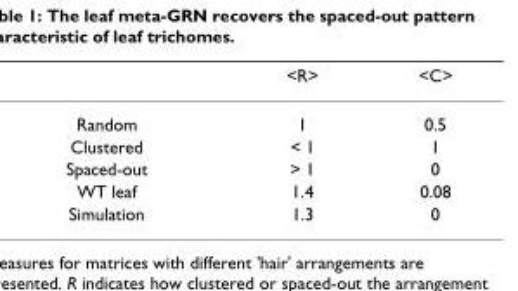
<table><thead><tr><td></td><td>&lt;R&gt;</td><td>&lt;C&gt;</td></tr></thead><tbody><tr><td>Random</td><td>1</td><td>0.5</td></tr><tr><td>Clustered</td><td>&lt; 1</td><td>1</td></tr><tr><td>Spaced-out</td><td>&gt; 1</td><td>0</td></tr><tr><td>WT leaf</td><td>1.4</td><td>0.08</td></tr><tr><td>Simulation</td><td>1.3</td><td>0</td></tr></tbody></table>